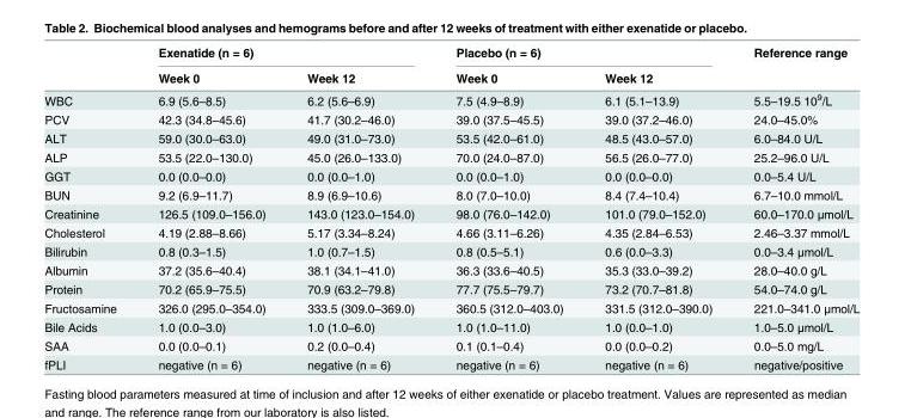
<table><thead><tr><td rowspan="2"></td><td colspan="2">Exenatide (n = 6)</td><td colspan="2">Placebo (n = 6)</td><td rowspan="2">Reference range</td></tr><tr><td>Week 0</td><td>Week 12</td><td>Week 0</td><td>Week 12</td></tr></thead><tbody><tr><td>WBC</td><td>6.9 (5.6–8.5)</td><td>6.2 (5.6–6.9)</td><td>7.5 (4.9–8.9)</td><td>6.1 (5.1–13.9)</td><td>5.5–19.5 10<sup>9</sup>/L</td></tr><tr><td>PCV</td><td>42.3 (34.8–45.6)</td><td>41.7 (30.2–46.0)</td><td>39.0 (37.5–45.5)</td><td>39.0 (37.2–46.0)</td><td>24.0–45.0%</td></tr><tr><td>ALT</td><td>59.0 (30.0–63.0)</td><td>49.0 (31.0–73.0)</td><td>53.5 (42.0–61.0)</td><td>48.5 (43.0–57.0)</td><td>6.0–84.0 U/L</td></tr><tr><td>ALP</td><td>53.5 (22.0–130.0)</td><td>45.0 (26.0–133.0)</td><td>70.0 (24.0–87.0)</td><td>56.5 (26.0–77.0)</td><td>25.2–96.0 U/L</td></tr><tr><td>GGT</td><td>0.0 (0.0–0.0)</td><td>0.0 (0.0–1.0)</td><td>0.0 (0.0–1.0)</td><td>0.0 (0.0–0.0)</td><td>0.0–5.4 U/L</td></tr><tr><td>BUN</td><td>9.2 (6.9–11.7)</td><td>8.9 (6.9–10.6)</td><td>8.0 (7.0–10.0)</td><td>8.4 (7.4–10.4)</td><td>6.7–10.0 mmol/L</td></tr><tr><td>Creatinine</td><td>126.5 (109.0–156.0)</td><td>143.0 (123.0–154.0)</td><td>98.0 (76.0–142.0)</td><td>101.0 (79.0–152.0)</td><td>60.0–170.0 μmol/L</td></tr><tr><td>Cholesterol</td><td>4.19 (2.88–8.66)</td><td>5.17 (3.34–8.24)</td><td>4.66 (3.11–6.26)</td><td>4.35 (2.84–6.53)</td><td>2.46–3.37 mmol/L</td></tr><tr><td>Bilirubin</td><td>0.8 (0.3–1.5)</td><td>1.0 (0.7–1.5)</td><td>0.8 (0.5–5.1)</td><td>0.6 (0.0–3.3)</td><td>0.0–3.4 μmol/L</td></tr><tr><td>Albumin</td><td>37.2 (35.6–40.4)</td><td>38.1 (34.1–41.0)</td><td>36.3 (33.6–40.5)</td><td>35.3 (33.0–39.2)</td><td>28.0–40.0 g/L</td></tr><tr><td>Protein</td><td>70.2 (65.9–75.5)</td><td>70.9 (63.2–79.8)</td><td>77.7 (75.5–79.7)</td><td>73.2 (70.7–81.8)</td><td>54.0–74.0 g/L</td></tr><tr><td>Fructosamine</td><td>326.0 (295.0–354.0)</td><td>333.5 (309.0–369.0)</td><td>360.5 (312.0–403.0)</td><td>331.5 (312.0–390.0)</td><td>221.0–341.0 μmol/L</td></tr><tr><td>Bile Acids</td><td>1.0 (0.0–3.0)</td><td>1.0 (1.0–6.0)</td><td>1.0 (1.0–11.0)</td><td>1.0 (0.0–1.0)</td><td>1.0–5.0 μmol/L</td></tr><tr><td>SAA</td><td>0.0 (0.0–0.1)</td><td>0.2 (0.0–0.4)</td><td>0.1 (0.1–0.4)</td><td>0.0 (0.0–0.2)</td><td>0.0–5.0 mg/L</td></tr><tr><td>fPLI</td><td>negative (n = 6)</td><td>negative (n = 6)</td><td>negative (n = 6)</td><td>negative (n = 6)</td><td>negative/positive</td></tr></tbody></table>